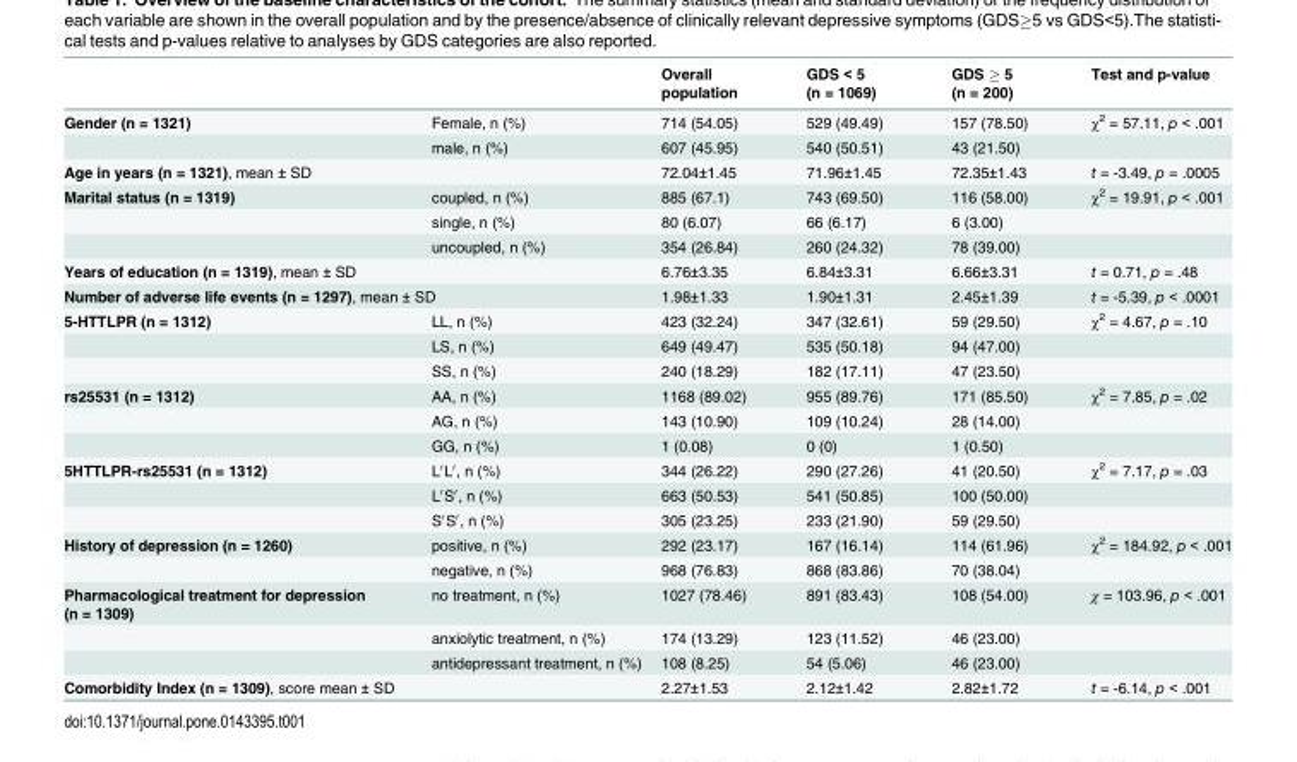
<table><thead><tr><td></td><td></td><td>Overall population</td><td>GDS &lt; 5 (n = 1069)</td><td>GDS ≥ 5 (n = 200)</td><td>Test and p-value</td></tr></thead><tbody><tr><td rowspan="2">Gender (n = 1321)</td><td>Female, n (%)</td><td>714 (54.05)</td><td>529 (49.49)</td><td>157 (78.50)</td><td>χ<sup>2</sup> = 57.11, p &lt; .001</td></tr><tr><td>male, n (%)</td><td>607 (45.95)</td><td>540 (50.51)</td><td>43 (21.50)</td><td></td></tr><tr><td colspan="2">Age in years (n = 1321), mean ± SD</td><td>72.04±1.45</td><td>71.96±1.45</td><td>72.35±1.43</td><td>t = -3.49, p = .0005</td></tr><tr><td rowspan="3">Marital status (n = 1319)</td><td>coupled, n (%)</td><td>885 (67.1)</td><td>743 (69.50)</td><td>116 (58.00)</td><td>χ<sup>2</sup> = 19.91, p &lt; .001</td></tr><tr><td>single, n (%)</td><td>80 (6.07)</td><td>66 (6.17)</td><td>6 (3.00)</td><td></td></tr><tr><td>uncoupled, n (%)</td><td>354 (26.84)</td><td>260 (24.32)</td><td>78 (39.00)</td><td></td></tr><tr><td colspan="2">Years of education (n = 1319), mean ± SD</td><td>6.76±3.35</td><td>6.84±3.31</td><td>6.66±3.31</td><td>t = 0.71, p = .48</td></tr><tr><td colspan="2">Number of adverse life events (n = 1297), mean ± SD</td><td>1.98±1.33</td><td>1.90±1.31</td><td>2.45±1.39</td><td>t = -5.39, p &lt; .0001</td></tr><tr><td rowspan="3">5-HTTLPR (n = 1312)</td><td>LL, n (%)</td><td>423 (32.24)</td><td>347 (32.61)</td><td>59 (29.50)</td><td>χ<sup>2</sup> = 4.67, p = .10</td></tr><tr><td>LS, n (%)</td><td>649 (49.47)</td><td>535 (50.18)</td><td>94 (47.00)</td><td></td></tr><tr><td>SS, n (%)</td><td>240 (18.29)</td><td>182 (17.11)</td><td>47 (23.50)</td><td></td></tr><tr><td rowspan="3">rs25531 (n = 1312)</td><td>AA, n (%)</td><td>1168 (89.02)</td><td>955 (89.76)</td><td>171 (85.50)</td><td>χ<sup>2</sup> = 7.85, p = .02</td></tr><tr><td>AG, n (%)</td><td>143 (10.90)</td><td>109 (10.24)</td><td>28 (14.00)</td><td></td></tr><tr><td>GG, n (%)</td><td>1 (0.08)</td><td>0 (0)</td><td>1 (0.50)</td><td></td></tr><tr><td rowspan="3">5HTTLPR-rs25531 (n = 1312)</td><td>L′L′, n (%)</td><td>344 (26.22)</td><td>290 (27.26)</td><td>41 (20.50)</td><td>χ<sup>2</sup> = 7.17, p = .03</td></tr><tr><td>L′S′, n (%)</td><td>663 (50.53)</td><td>541 (50.85)</td><td>100 (50.00)</td><td></td></tr><tr><td>S′S′, n (%)</td><td>305 (23.25)</td><td>233 (21.90)</td><td>59 (29.50)</td><td></td></tr><tr><td rowspan="2">History of depression (n = 1260)</td><td>positive, n (%)</td><td>292 (23.17)</td><td>167 (16.14)</td><td>114 (61.96)</td><td>χ<sup>2</sup> = 184.92, p &lt; .001</td></tr><tr><td>negative, n (%)</td><td>968 (76.83)</td><td>868 (83.86)</td><td>70 (38.04)</td><td></td></tr><tr><td rowspan="3">Pharmacological treatment for depression (n = 1309)</td><td>no treatment, n (%)</td><td>1027 (78.46)</td><td>891 (83.43)</td><td>108 (54.00)</td><td>χ = 103.96, p &lt; .001</td></tr><tr><td>anxiolytic treatment, n (%)</td><td>174 (13.29)</td><td>123 (11.52)</td><td>46 (23.00)</td><td></td></tr><tr><td>antidepressant treatment, n (%)</td><td>108 (8.25)</td><td>54 (5.06)</td><td>46 (23.00)</td><td></td></tr><tr><td colspan="2">Comorbidity Index (n = 1309), score mean ± SD</td><td>2.27±1.53</td><td>2.12±1.42</td><td>2.82±1.72</td><td>t = -6.14, p &lt; .001</td></tr></tbody></table>